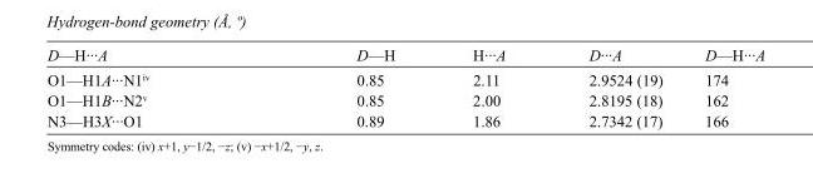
<table><tbody><tr><td>D—H···A</td><td>D—H</td><td>H···A</td><td>D···A</td><td>D—H···A</td></tr><tr><td>O1—H1A···N1<sup>iv</sup></td><td>0.85</td><td>2.11</td><td>2.9524 (19)</td><td>174</td></tr><tr><td>O1—H1B···N2<sup>v</sup></td><td>0.85</td><td>2.00</td><td>2.8195 (18)</td><td>162</td></tr><tr><td>N3—H3X···O1</td><td>0.89</td><td>1.86</td><td>2.7342 (17)</td><td>166</td></tr></tbody></table>